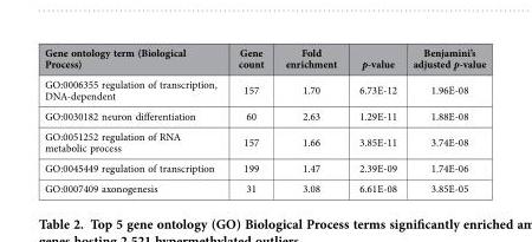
<table><thead><tr><td>Gene ontology term (Biological Process)</td><td>Gene count</td><td>Fold enrichment</td><td>p-value</td><td>Benjamini’s adjusted p-value</td></tr></thead><tbody><tr><td>GO:0006355 regulation of transcription, DNA-dependent</td><td>157</td><td>1.70</td><td>6.73E-12</td><td>1.96E-08</td></tr><tr><td>GO:0030182 neuron differentiation</td><td>60</td><td>2.63</td><td>1.29E-11</td><td>1.88E-08</td></tr><tr><td>GO:0051252 regulation of RNA metabolic process</td><td>157</td><td>1.66</td><td>3.85E-11</td><td>3.74E-08</td></tr><tr><td>GO:0045449 regulation of transcription</td><td>199</td><td>1.47</td><td>2.39E-09</td><td>1.74E-06</td></tr><tr><td>GO:0007409 axonogenesis</td><td>31</td><td>3.08</td><td>6.61E-08</td><td>3.85E-05</td></tr></tbody></table>